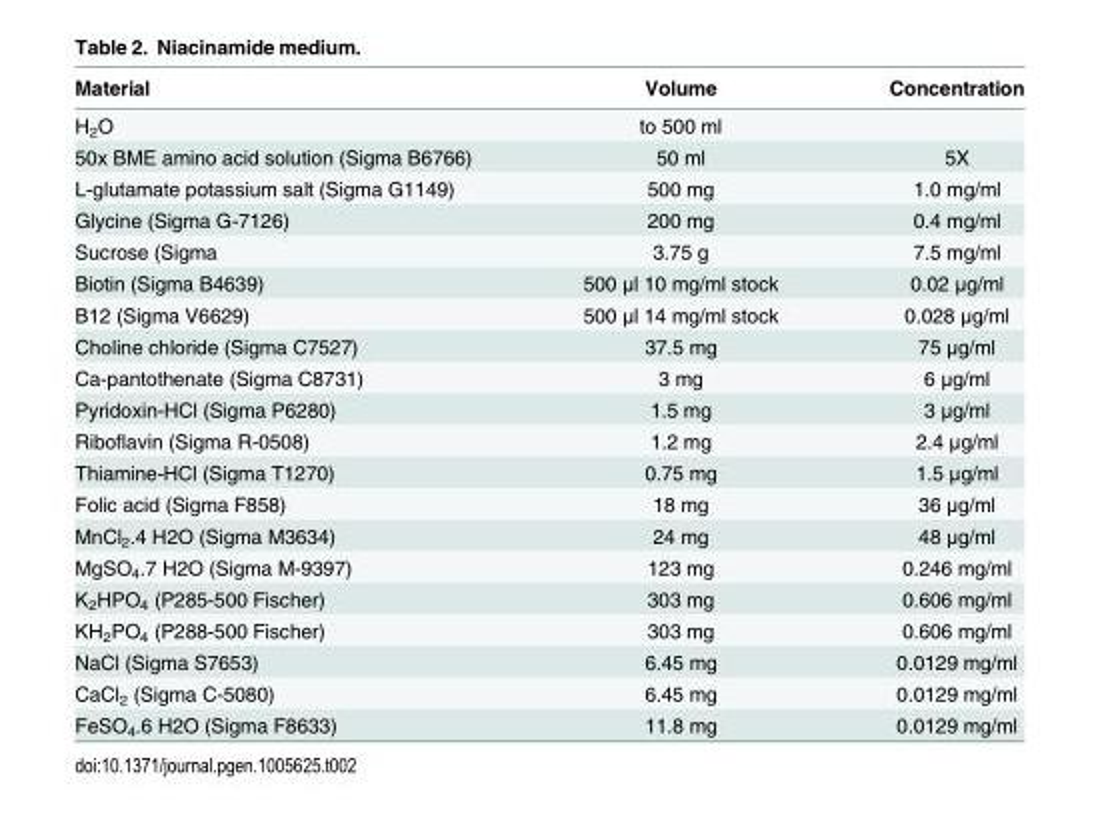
<table><thead><tr><td>Material</td><td>Volume</td><td>Concentration</td></tr></thead><tbody><tr><td>H<sub>2</sub>O</td><td>to 500 ml</td><td></td></tr><tr><td>50x BME amino acid solution (Sigma B6766)</td><td>50 ml</td><td>5X</td></tr><tr><td>L-glutamate potassium salt (Sigma G1149)</td><td>500 mg</td><td>1.0 mg/ml</td></tr><tr><td>Glycine (Sigma G-7126)</td><td>200 mg</td><td>0.4 mg/ml</td></tr><tr><td>Sucrose (Sigma</td><td>3.75 g</td><td>7.5 mg/ml</td></tr><tr><td>Biotin (Sigma B4639)</td><td>500 μl 10 mg/ml stock</td><td>0.02 μg/ml</td></tr><tr><td>B12 (Sigma V6629)</td><td>500 μl 14 mg/ml stock</td><td>0.028 μg/ml</td></tr><tr><td>Choline chloride (Sigma C7527)</td><td>37.5 mg</td><td>75 μg/ml</td></tr><tr><td>Ca-pantothenate (Sigma C8731)</td><td>3 mg</td><td>6 μg/ml</td></tr><tr><td>Pyridoxin-HCl (Sigma P6280)</td><td>1.5 mg</td><td>3 μg/ml</td></tr><tr><td>Riboflavin (Sigma R-0508)</td><td>1.2 mg</td><td>2.4 μg/ml</td></tr><tr><td>Thiamine-HCl (Sigma T1270)</td><td>0.75 mg</td><td>1.5 μg/ml</td></tr><tr><td>Folic acid (Sigma F858)</td><td>18 mg</td><td>36 μg/ml</td></tr><tr><td>MnCl<sub>2</sub>.4 H2O (Sigma M3634)</td><td>24 mg</td><td>48 μg/ml</td></tr><tr><td>MgSO<sub>4</sub>.7 H2O (Sigma M-9397)</td><td>123 mg</td><td>0.246 mg/ml</td></tr><tr><td>K<sub>2</sub>HPO<sub>4</sub> (P285-500 Fischer)</td><td>303 mg</td><td>0.606 mg/ml</td></tr><tr><td>KH<sub>2</sub>PO<sub>4</sub> (P288-500 Fischer)</td><td>303 mg</td><td>0.606 mg/ml</td></tr><tr><td>NaCl (Sigma S7653)</td><td>6.45 mg</td><td>0.0129 mg/ml</td></tr><tr><td>CaCl<sub>2</sub> (Sigma C-5080)</td><td>6.45 mg</td><td>0.0129 mg/ml</td></tr><tr><td>FeSO<sub>4</sub>.6 H2O (Sigma F8633)</td><td>11.8 mg</td><td>0.0129 mg/ml</td></tr></tbody></table>